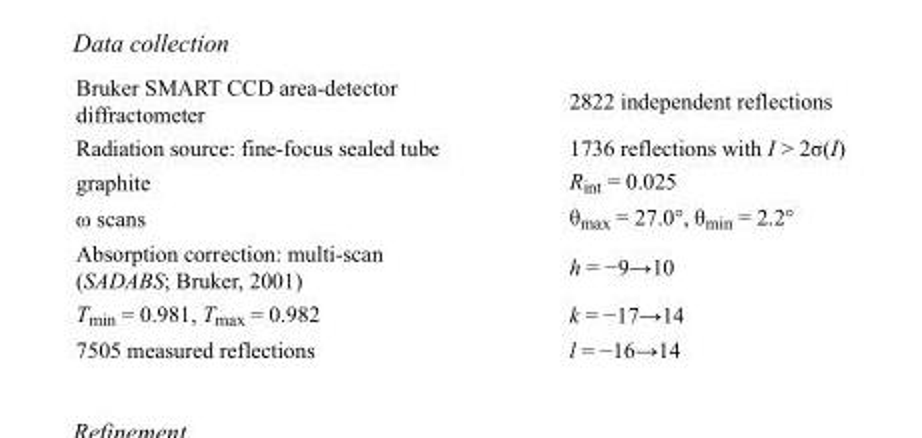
<table><tbody><tr><td>Bruker SMART CCD area-detector diffractometer</td><td>2822 independent reflections</td></tr><tr><td>Radiation source: fine-focus sealed tube</td><td>1736 reflections with I &gt; 2σ(I)</td></tr><tr><td>graphite</td><td>R<sub>int</sub> = 0.025</td></tr><tr><td>ω scans</td><td>θ<sub>max</sub> = 27.0°, θ<sub>min</sub> = 2.2°</td></tr><tr><td>Absorption correction: multi-scan (SADABS; Bruker, 2001)</td><td>h = −9→10</td></tr><tr><td>T<sub>min</sub> = 0.981, T<sub>max</sub> = 0.982</td><td>k = −17→14</td></tr><tr><td>7505 measured reflections</td><td>l = −16→14</td></tr></tbody></table>